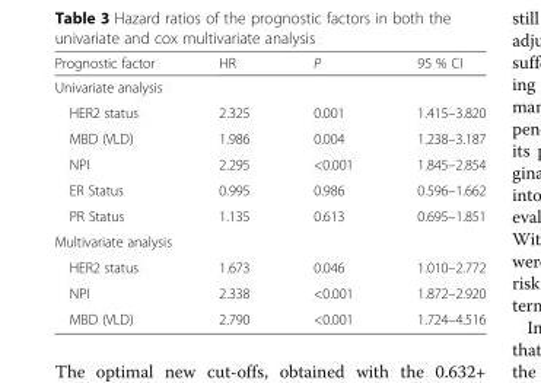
<table><thead><tr><td>Prognostic factor</td><td>HR</td><td>P</td><td>95 % CI</td></tr></thead><tbody><tr><td colspan="4">Univariate analysis</td></tr><tr><td>HER2 status</td><td>2.325</td><td>0.001</td><td>1.415–3.820</td></tr><tr><td>MBD (VLD)</td><td>1.986</td><td>0.004</td><td>1.238–3.187</td></tr><tr><td>NPI</td><td>2.295</td><td>&lt;0.001</td><td>1.845–2.854</td></tr><tr><td>ER Status</td><td>0.995</td><td>0.986</td><td>0.596–1.662</td></tr><tr><td>PR Status</td><td>1.135</td><td>0.613</td><td>0.695–1.851</td></tr><tr><td colspan="4">Multivariate analysis</td></tr><tr><td>HER2 status</td><td>1.673</td><td>0.046</td><td>1.010–2.772</td></tr><tr><td>NPI</td><td>2.338</td><td>&lt;0.001</td><td>1.872–2.920</td></tr><tr><td>MBD (VLD)</td><td>2.790</td><td>&lt;0.001</td><td>1.724–4.516</td></tr></tbody></table>